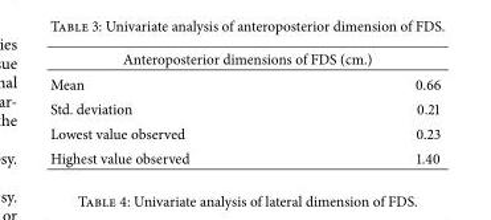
<table><thead><tr><td colspan="2">Anteroposterior dimensions of FDS (cm.)</td></tr><tr><td>Mean</td><td>0.66</td></tr></thead><tbody><tr><td>Std. deviation</td><td>0.21</td></tr><tr><td>Lowest value observed</td><td>0.23</td></tr><tr><td>Highest value observed</td><td>1.40</td></tr></tbody></table>